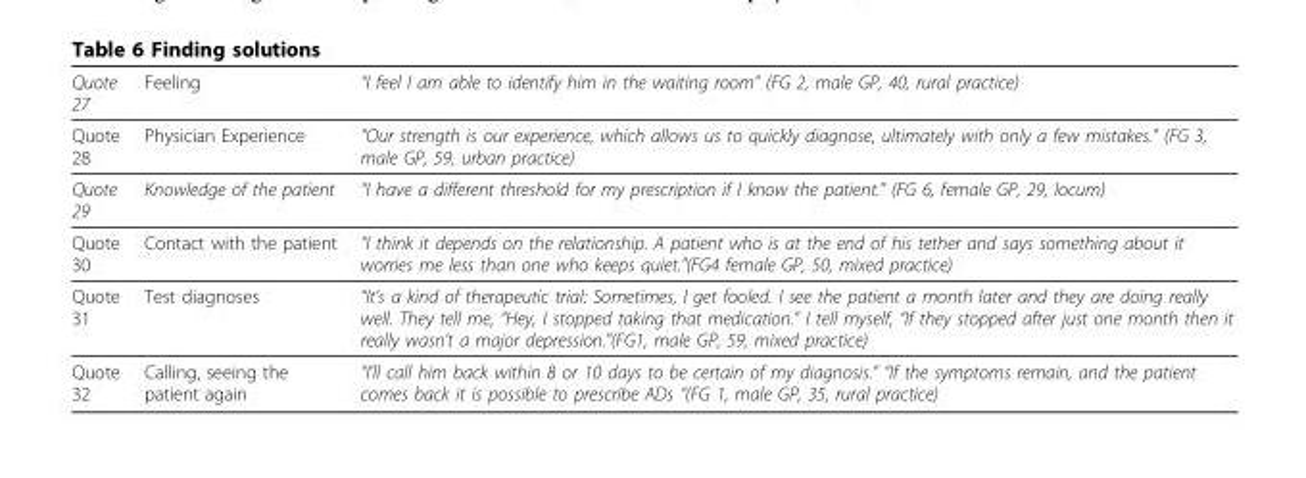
<table><thead><tr><td>Quote 27</td><td>Feeling</td><td>“I feel I am able to identify him in the waiting room” (FG 2, male GP, 40, rural practice)</td></tr></thead><tbody><tr><td>Quote 28</td><td>Physician Experience</td><td>“Our strength is our experience, which allows us to quickly diagnose, ultimately with only a few mistakes.” (FG 3, male GP, 59, urban practice)</td></tr><tr><td>Quote 29</td><td>Knowledge of the patient</td><td>“I have a different threshold for my prescription if I know the patient.” (FG 6, female GP, 29, locum)</td></tr><tr><td>Quote 30</td><td>Contact with the patient</td><td>“I think it depends on the relationship. A patient who is at the end of his tether and says something about it worries me less than one who keeps quiet.&quot;(FG4 female GP, 50, mixed practice)</td></tr><tr><td>Quote 31</td><td>Test diagnoses</td><td>“It’s a kind of therapeutic trial: Sometimes, I get fooled. I see the patient a month later and they are doing really well. They tell me, “Hey, I stopped taking that medication.” I tell myself, “If they stopped after just one month then it really wasn’t a major depression.&quot;(FG1, male GP, 59, mixed practice)</td></tr><tr><td>Quote 32</td><td>Calling, seeing the patient again</td><td>“I’ll call him back within 8 or 10 days to be certain of my diagnosis.” “If the symptoms remain, and the patient comes back it is possible to prescribe ADs “(FG 1, male GP, 35, rural practice)</td></tr></tbody></table>